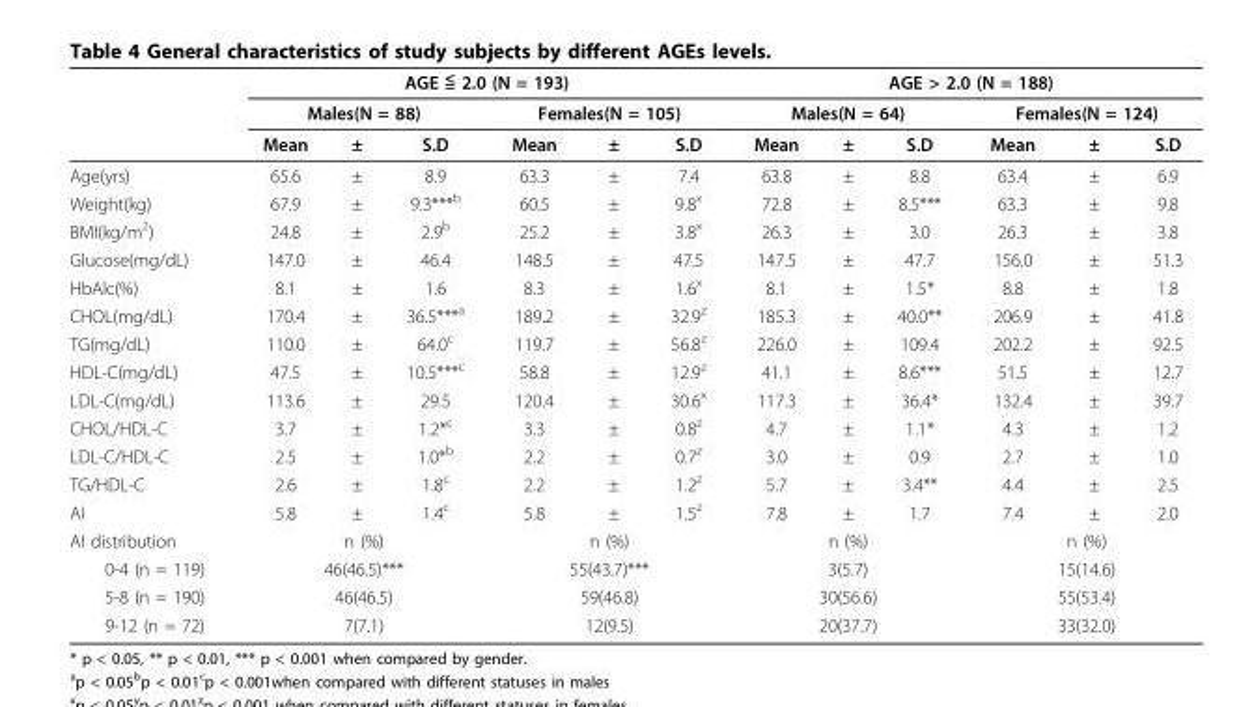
<table><thead><tr><td rowspan="3"></td><td colspan="6">AGE ≦ 2.0 (N = 193)</td><td colspan="6">AGE &gt; 2.0 (N = 188)</td></tr><tr><td colspan="3">Males(N = 88)</td><td colspan="3">Females(N = 105)</td><td colspan="3">Males(N = 64)</td><td colspan="3">Females(N = 124)</td></tr><tr><td>Mean</td><td>±</td><td>S.D</td><td>Mean</td><td>±</td><td>S.D</td><td>Mean</td><td>±</td><td>S.D</td><td>Mean</td><td>±</td><td>S.D</td></tr></thead><tbody><tr><td>Age(yrs)</td><td>65.6</td><td>±</td><td>8.9</td><td>63.3</td><td>±</td><td>7.4</td><td>63.8</td><td>±</td><td>8.8</td><td>63.4</td><td>±</td><td>6.9</td></tr><tr><td>Weight(kg)</td><td>67.9</td><td>±</td><td>9.3***<sup>b</sup></td><td>60.5</td><td>±</td><td>9.8<sup>x</sup></td><td>72.8</td><td>±</td><td>8.5***</td><td>63.3</td><td>±</td><td>9.8</td></tr><tr><td>BMI(kg/m<sup>2</sup>)</td><td>24.8</td><td>±</td><td>2.9<sup>b</sup></td><td>25.2</td><td>±</td><td>3.8<sup>x</sup></td><td>26.3</td><td>±</td><td>3.0</td><td>26.3</td><td>±</td><td>3.8</td></tr><tr><td>Glucose(mg/dL)</td><td>147.0</td><td>±</td><td>46.4</td><td>148.5</td><td>±</td><td>47.5</td><td>147.5</td><td>±</td><td>47.7</td><td>156.0</td><td>±</td><td>51.3</td></tr><tr><td>HbAlc(%)</td><td>8.1</td><td>±</td><td>1.6</td><td>8.3</td><td>±</td><td>1.6<sup>x</sup></td><td>8.1</td><td>±</td><td>1.5*</td><td>8.8</td><td>±</td><td>1.8</td></tr><tr><td>CHOL(mg/dL)</td><td>170.4</td><td>±</td><td>36.5***<sup>a</sup></td><td>189.2</td><td>±</td><td>32.9<sup>z</sup></td><td>185.3</td><td>±</td><td>40.0**</td><td>206.9</td><td>±</td><td>41.8</td></tr><tr><td>TG(mg/dL)</td><td>110.0</td><td>±</td><td>64.0<sup>c</sup></td><td>119.7</td><td>±</td><td>56.8<sup>z</sup></td><td>226.0</td><td>±</td><td>109.4</td><td>202.2</td><td>±</td><td>92.5</td></tr><tr><td>HDL-C(mg/dL)</td><td>47.5</td><td>±</td><td>10.5***<sup>c</sup></td><td>58.8</td><td>±</td><td>12.9<sup>z</sup></td><td>41.1</td><td>±</td><td>8.6***</td><td>51.5</td><td>±</td><td>12.7</td></tr><tr><td>LDL-C(mg/dL)</td><td>113.6</td><td>±</td><td>29.5</td><td>120.4</td><td>±</td><td>30.6<sup>x</sup></td><td>117.3</td><td>±</td><td>36.4*</td><td>132.4</td><td>±</td><td>39.7</td></tr><tr><td>CHOL/HDL-C</td><td>3.7</td><td>±</td><td>1.2*<sup>c</sup></td><td>3.3</td><td>±</td><td>0.8<sup>z</sup></td><td>4.7</td><td>±</td><td>1.1*</td><td>4.3</td><td>±</td><td>1.2</td></tr><tr><td>LDL-C/HDL-C</td><td>2.5</td><td>±</td><td>1.0*<sup>b</sup></td><td>2.2</td><td>±</td><td>0.7<sup>z</sup></td><td>3.0</td><td>±</td><td>0.9</td><td>2.7</td><td>±</td><td>1.0</td></tr><tr><td>TG/HDL-C</td><td>2.6</td><td>±</td><td>1.8<sup>c</sup></td><td>2.2</td><td>±</td><td>1.2<sup>z</sup></td><td>5.7</td><td>±</td><td>3.4**</td><td>4.4</td><td>±</td><td>2.5</td></tr><tr><td>AI</td><td>5.8</td><td>±</td><td>1.4<sup>c</sup></td><td>5.8</td><td>±</td><td>1.5<sup>z</sup></td><td>7.8</td><td>±</td><td>1.7</td><td>7.4</td><td>±</td><td>2.0</td></tr><tr><td>AI distribution</td><td colspan="3">n (%)</td><td colspan="3">n (%)</td><td colspan="3">n (%)</td><td colspan="3">n (%)</td></tr><tr><td>0-4 (n = 119)</td><td colspan="3">46(46.5)***</td><td colspan="3">55(43.7)***</td><td colspan="3">3(5.7)</td><td colspan="3">15(14.6)</td></tr><tr><td>5-8 (n = 190)</td><td colspan="3">46(46.5)</td><td colspan="3">59(46.8)</td><td colspan="3">30(56.6)</td><td colspan="3">55(53.4)</td></tr><tr><td>9-12 (n = 72)</td><td colspan="3">7(7.1)</td><td colspan="3">12(9.5)</td><td colspan="3">20(37.7)</td><td colspan="3">33(32.0)</td></tr></tbody></table>